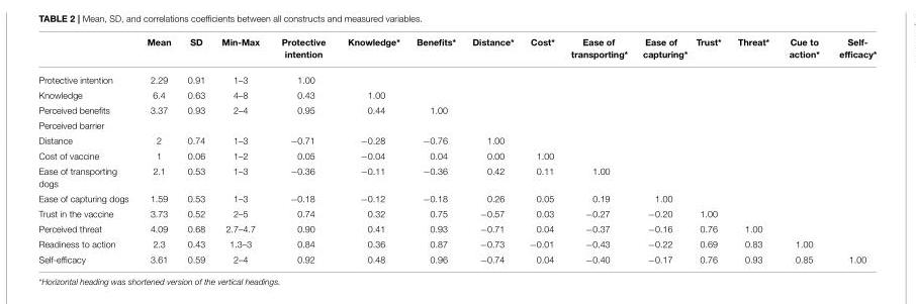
<table><thead><tr><td></td><td>Mean</td><td>SD</td><td>Min-Max</td><td>Protective intention</td><td>Knowledge*</td><td>Benefits*</td><td>Distance*</td><td>Cost*</td><td>Ease of transporting*</td><td>Ease of capturing*</td><td>Trust*</td><td>Threat*</td><td>Cue to action*</td><td>Self- efficacy*</td></tr></thead><tbody><tr><td>Protective intention</td><td>2.29</td><td>0.91</td><td>1–3</td><td>1.00</td><td></td><td></td><td></td><td></td><td></td><td></td><td></td><td></td><td></td><td></td></tr><tr><td>Knowledge</td><td>6.4</td><td>0.63</td><td>4–8</td><td>0.43</td><td>1.00</td><td></td><td></td><td></td><td></td><td></td><td></td><td></td><td></td><td></td></tr><tr><td>Perceived benefits</td><td>3.37</td><td>0.93</td><td>2–4</td><td>0.95</td><td>0.44</td><td>1.00</td><td></td><td></td><td></td><td></td><td></td><td></td><td></td><td></td></tr><tr><td colspan="15">Perceived barrier</td></tr><tr><td>Distance</td><td>2</td><td>0.74</td><td>1–3</td><td>−0.71</td><td>−0.28</td><td>−0.76</td><td>1.00</td><td></td><td></td><td></td><td></td><td></td><td></td><td></td></tr><tr><td>Cost of vaccine</td><td>1</td><td>0.06</td><td>1–2</td><td>0.05</td><td>−0.04</td><td>0.04</td><td>0.00</td><td>1.00</td><td></td><td></td><td></td><td></td><td></td><td></td></tr><tr><td>Ease of transporting dogs</td><td>2.1</td><td>0.53</td><td>1–3</td><td>−0.36</td><td>−0.11</td><td>−0.36</td><td>0.42</td><td>0.11</td><td>1.00</td><td></td><td></td><td></td><td></td><td></td></tr><tr><td>Ease of capturing dogs</td><td>1.59</td><td>0.53</td><td>1–3</td><td>−0.18</td><td>−0.12</td><td>−0.18</td><td>0.26</td><td>0.05</td><td>0.19</td><td>1.00</td><td></td><td></td><td></td><td></td></tr><tr><td>Trust in the vaccine</td><td>3.73</td><td>0.52</td><td>2–5</td><td>0.74</td><td>0.32</td><td>0.75</td><td>−0.57</td><td>0.03</td><td>−0.27</td><td>−0.20</td><td>1.00</td><td></td><td></td><td></td></tr><tr><td>Perceived threat</td><td>4.09</td><td>0.68</td><td>2.7–4.7</td><td>0.90</td><td>0.41</td><td>0.93</td><td>−0.71</td><td>0.04</td><td>−0.37</td><td>−0.16</td><td>0.76</td><td>1.00</td><td></td><td></td></tr><tr><td>Readiness to action</td><td>2.3</td><td>0.43</td><td>1.3–3</td><td>0.84</td><td>0.36</td><td>0.87</td><td>−0.73</td><td>−0.01</td><td>−0.43</td><td>−0.22</td><td>0.69</td><td>0.83</td><td>1.00</td><td></td></tr><tr><td>Self-efficacy</td><td>3.61</td><td>0.59</td><td>2–4</td><td>0.92</td><td>0.48</td><td>0.96</td><td>−0.74</td><td>0.04</td><td>−0.40</td><td>−0.17</td><td>0.76</td><td>0.93</td><td>0.85</td><td>1.00</td></tr></tbody></table>